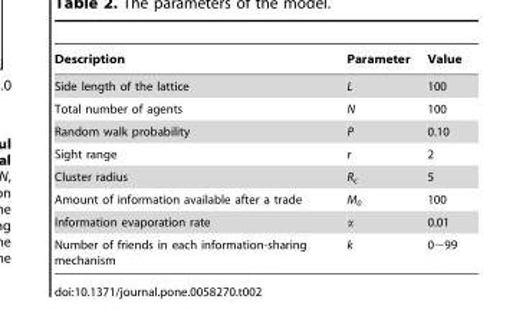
<table><thead><tr><td>Description</td><td>Parameter</td><td>Value</td></tr></thead><tbody><tr><td>Side length of the lattice</td><td>L</td><td>100</td></tr><tr><td>Total number of agents</td><td>N</td><td>100</td></tr><tr><td>Random walk probability</td><td>P</td><td>0.10</td></tr><tr><td>Sight range</td><td>r</td><td>2</td></tr><tr><td>Cluster radius</td><td>R<sub>c</sub></td><td>5</td></tr><tr><td>Amount of information available after a trade</td><td>M<sub>0</sub></td><td>100</td></tr><tr><td>Information evaporation rate</td><td>α</td><td>0.01</td></tr><tr><td>Number of friends in each information-sharing mechanism</td><td>k</td><td>0∼99</td></tr></tbody></table>